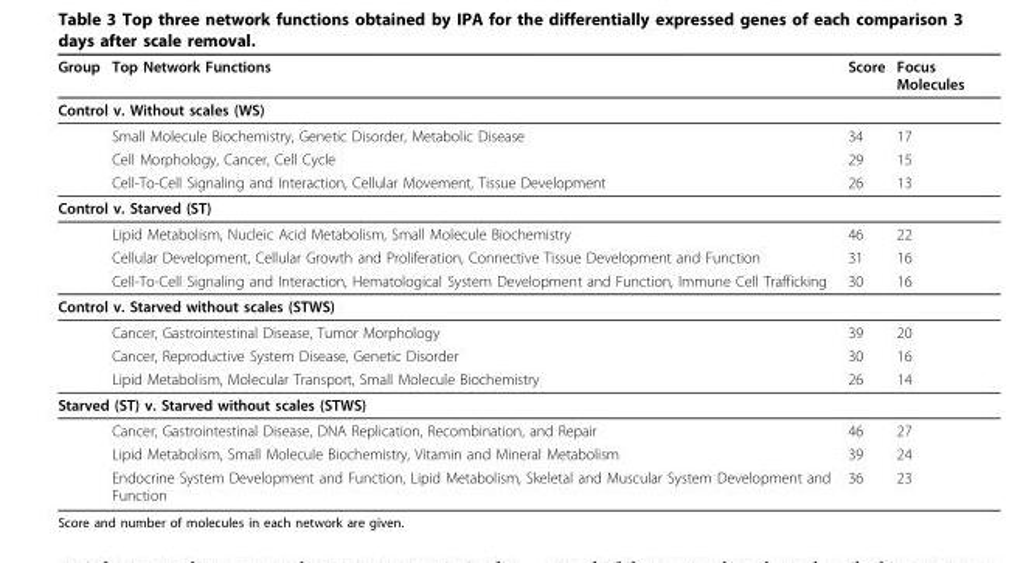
<table><thead><tr><td>Group</td><td>Top Network Functions</td><td>Score</td><td>Focus Molecules</td></tr></thead><tbody><tr><td colspan="4">Control v. Without scales (WS)</td></tr><tr><td></td><td>Small Molecule Biochemistry, Genetic Disorder, Metabolic Disease</td><td>34</td><td>17</td></tr><tr><td></td><td>Cell Morphology, Cancer, Cell Cycle</td><td>29</td><td>15</td></tr><tr><td></td><td>Cell-To-Cell Signaling and Interaction, Cellular Movement, Tissue Development</td><td>26</td><td>13</td></tr><tr><td colspan="4">Control v. Starved (ST)</td></tr><tr><td></td><td>Lipid Metabolism, Nucleic Acid Metabolism, Small Molecule Biochemistry</td><td>46</td><td>22</td></tr><tr><td></td><td>Cellular Development, Cellular Growth and Proliferation, Connective Tissue Development and Function</td><td>31</td><td>16</td></tr><tr><td></td><td>Cell-To-Cell Signaling and Interaction, Hematological System Development and Function, Immune Cell Trafficking</td><td>30</td><td>16</td></tr><tr><td colspan="4">Control v. Starved without scales (STWS)</td></tr><tr><td></td><td>Cancer, Gastrointestinal Disease, Tumor Morphology</td><td>39</td><td>20</td></tr><tr><td></td><td>Cancer, Reproductive System Disease, Genetic Disorder</td><td>30</td><td>16</td></tr><tr><td></td><td>Lipid Metabolism, Molecular Transport, Small Molecule Biochemistry</td><td>26</td><td>14</td></tr><tr><td colspan="4">Starved (ST) v. Starved without scales (STWS)</td></tr><tr><td></td><td>Cancer, Gastrointestinal Disease, DNA Replication, Recombination, and Repair</td><td>46</td><td>27</td></tr><tr><td></td><td>Lipid Metabolism, Small Molecule Biochemistry, Vitamin and Mineral Metabolism</td><td>39</td><td>24</td></tr><tr><td></td><td>Endocrine System Development and Function, Lipid Metabolism, Skeletal and Muscular System Development and Function</td><td>36</td><td>23</td></tr></tbody></table>